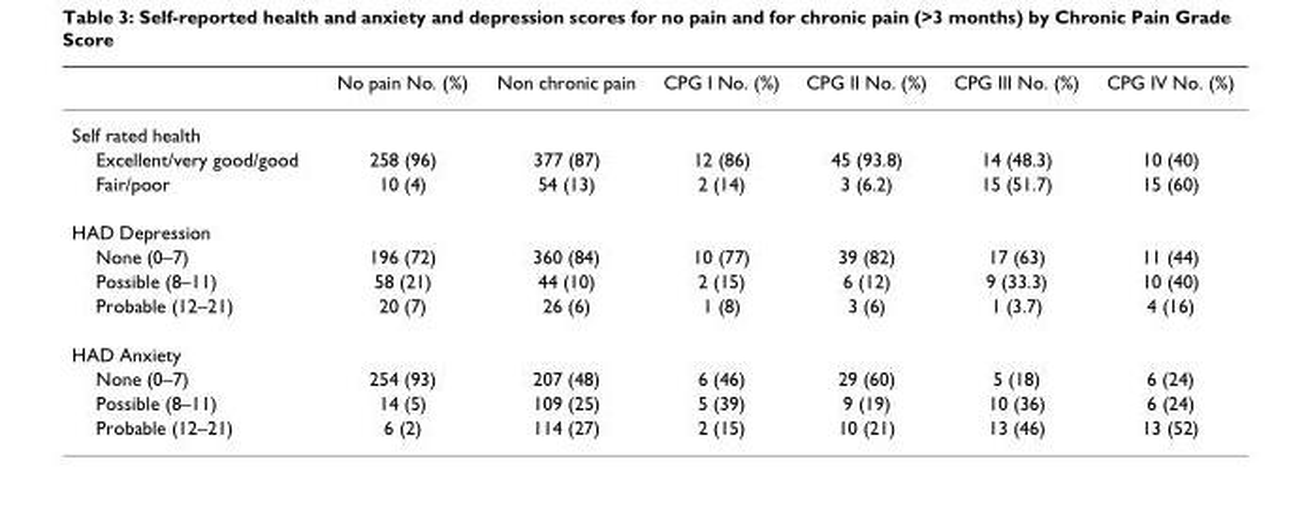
<table><thead><tr><td></td><td>No pain No. (%)</td><td>Non chronic pain</td><td>CPG I No. (%)</td><td>CPG II No. (%)</td><td>CPG III No. (%)</td><td>CPG IV No. (%)</td></tr></thead><tbody><tr><td colspan="7">Self rated health</td></tr><tr><td>Excellent/very good/good</td><td>258 (96)</td><td>377 (87)</td><td>12 (86)</td><td>45 (93.8)</td><td>14 (48.3)</td><td>10 (40)</td></tr><tr><td>Fair/poor</td><td>10 (4)</td><td>54 (13)</td><td>2 (14)</td><td>3 (6.2)</td><td>15 (51.7)</td><td>15 (60)</td></tr><tr><td colspan="7">HAD Depression</td></tr><tr><td>None (0–7)</td><td>196 (72)</td><td>360 (84)</td><td>10 (77)</td><td>39 (82)</td><td>17 (63)</td><td>11 (44)</td></tr><tr><td>Possible (8–11)</td><td>58 (21)</td><td>44 (10)</td><td>2 (15)</td><td>6 (12)</td><td>9 (33.3)</td><td>10 (40)</td></tr><tr><td>Probable (12–21)</td><td>20 (7)</td><td>26 (6)</td><td>1 (8)</td><td>3 (6)</td><td>1 (3.7)</td><td>4 (16)</td></tr><tr><td colspan="7">HAD Anxiety</td></tr><tr><td>None (0–7)</td><td>254 (93)</td><td>207 (48)</td><td>6 (46)</td><td>29 (60)</td><td>5 (18)</td><td>6 (24)</td></tr><tr><td>Possible (8–11)</td><td>14 (5)</td><td>109 (25)</td><td>5 (39)</td><td>9 (19)</td><td>10 (36)</td><td>6 (24)</td></tr><tr><td>Probable (12–21)</td><td>6 (2)</td><td>114 (27)</td><td>2 (15)</td><td>10 (21)</td><td>13 (46)</td><td>13 (52)</td></tr></tbody></table>